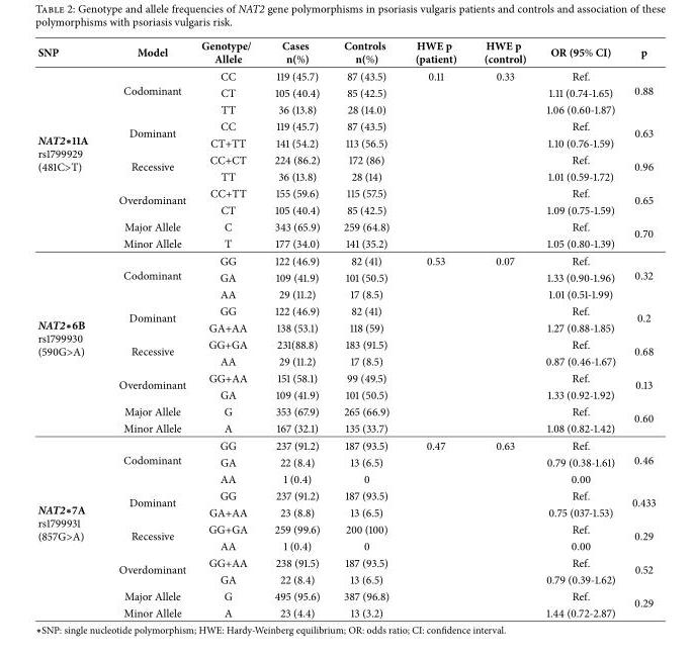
<table><thead><tr><td>SNP</td><td>Model</td><td>Genotype/ Allele</td><td>Cases n(%)</td><td>Controls n(%)</td><td>HWE p (patient)</td><td>HWE p (control)</td><td>OR (95% CI)</td><td>p</td></tr></thead><tbody><tr><td rowspan="11">NAT2∗11A rs1799929 (481C&gt;T)</td><td rowspan="3">Codominant</td><td>CC</td><td>119 (45.7)</td><td>87 (43.5)</td><td>0.11</td><td>0.33</td><td>Ref.</td><td rowspan="3">0.88</td></tr><tr><td>CT</td><td>105 (40.4)</td><td>85 (42.5)</td><td></td><td></td><td>1.11 (0.74-1.65)</td></tr><tr><td>TT</td><td>36 (13.8)</td><td>28 (14.0)</td><td></td><td></td><td>1.06 (0.60-1.87)</td></tr><tr><td rowspan="2">Dominant</td><td>CC</td><td>119 (45.7)</td><td>87 (43.5)</td><td></td><td></td><td>Ref.</td><td rowspan="2">0.63</td></tr><tr><td>CT+TT</td><td>141 (54.2)</td><td>113 (56.5)</td><td></td><td></td><td>1.10 (0.76-1.59)</td></tr><tr><td rowspan="2">Recessive</td><td>CC+CT</td><td>224 (86.2)</td><td>172 (86)</td><td></td><td></td><td>Ref.</td><td rowspan="2">0.96</td></tr><tr><td>TT</td><td>36 (13.8)</td><td>28 (14)</td><td></td><td></td><td>1.01 (0.59-1.72)</td></tr><tr><td rowspan="2">Overdominant</td><td>CC+TT</td><td>155 (59.6)</td><td>115 (57.5)</td><td></td><td></td><td>Ref.</td><td rowspan="2">0.65</td></tr><tr><td>CT</td><td>105 (40.4)</td><td>85 (42.5)</td><td></td><td></td><td>1.09 (0.75-1.59)</td></tr><tr><td>Major Allele</td><td>C</td><td>343 (65.9)</td><td>259 (64.8)</td><td></td><td></td><td>Ref.</td><td rowspan="2">0.70</td></tr><tr><td>Minor Allele</td><td>T</td><td>177 (34.0)</td><td>141 (35.2)</td><td></td><td></td><td>1.05 (0.80-1.39)</td></tr><tr><td rowspan="11">NAT2∗6B rs1799930 (590G&gt;A)</td><td rowspan="3">Codominant</td><td>GG</td><td>122 (46.9)</td><td>82 (41)</td><td>0.53</td><td>0.07</td><td>Ref.</td><td rowspan="3">0.32</td></tr><tr><td>GA</td><td>109 (41.9)</td><td>101 (50.5)</td><td></td><td></td><td>1.33 (0.90-1.96)</td></tr><tr><td>AA</td><td>29 (11.2)</td><td>17 (8.5)</td><td></td><td></td><td>1.01 (0.51-1.99)</td></tr><tr><td rowspan="2">Dominant</td><td>GG</td><td>122 (46.9)</td><td>82 (41)</td><td></td><td></td><td>Ref.</td><td rowspan="2">0.2</td></tr><tr><td>GA+AA</td><td>138 (53.1)</td><td>118 (59)</td><td></td><td></td><td>1.27 (0.88-1.85)</td></tr><tr><td rowspan="2">Recessive</td><td>GG+GA</td><td>231(88.8)</td><td>183 (91.5)</td><td></td><td></td><td>Ref.</td><td rowspan="2">0.68</td></tr><tr><td>AA</td><td>29 (11.2)</td><td>17 (8.5)</td><td></td><td></td><td>0.87 (0.46-1.67)</td></tr><tr><td rowspan="2">Overdominant</td><td>GG+AA</td><td>151 (58.1)</td><td>99 (49.5)</td><td></td><td></td><td>Ref.</td><td rowspan="2">0.13</td></tr><tr><td>GA</td><td>109 (41.9)</td><td>101 (50.5)</td><td></td><td></td><td>1.33 (0.92-1.92)</td></tr><tr><td>Major Allele</td><td>G</td><td>353 (67.9)</td><td>265 (66.9)</td><td></td><td></td><td>Ref.</td><td rowspan="2">0.60</td></tr><tr><td>Minor Allele</td><td>A</td><td>167 (32.1)</td><td>135 (33.7)</td><td></td><td></td><td>1.08 (0.82-1.42)</td></tr><tr><td rowspan="11">NAT2∗7A rs1799931 (857G&gt;A)</td><td rowspan="3">Codominant</td><td>GG</td><td>237 (91.2)</td><td>187 (93.5)</td><td>0.47</td><td>0.63</td><td>Ref.</td><td rowspan="3">0.46</td></tr><tr><td>GA</td><td>22 (8.4)</td><td>13 (6.5)</td><td></td><td></td><td>0.79 (0.38-1.61)</td></tr><tr><td>AA</td><td>1 (0.4)</td><td>0</td><td></td><td></td><td>0.00</td></tr><tr><td rowspan="2">Dominant</td><td>GG</td><td>237 (91.2)</td><td>187 (93.5)</td><td></td><td></td><td>Ref.</td><td rowspan="2">0.433</td></tr><tr><td>GA+AA</td><td>23 (8.8)</td><td>13 (6.5)</td><td></td><td></td><td>0.75 (037-1.53)</td></tr><tr><td rowspan="2">Recessive</td><td>GG+GA</td><td>259 (99.6)</td><td>200 (100)</td><td></td><td></td><td>Ref.</td><td rowspan="2">0.29</td></tr><tr><td>AA</td><td>1 (0.4)</td><td>0</td><td></td><td></td><td>0.00</td></tr><tr><td rowspan="2">Overdominant</td><td>GG+AA</td><td>238 (91.5)</td><td>187 (93.5)</td><td></td><td></td><td>Ref.</td><td rowspan="2">0.52</td></tr><tr><td>GA</td><td>22 (8.4)</td><td>13 (6.5)</td><td></td><td></td><td>0.79 (0.39-1.62)</td></tr><tr><td>Major Allele</td><td>G</td><td>495 (95.6)</td><td>387 (96.8)</td><td></td><td></td><td>Ref.</td><td rowspan="2">0.29</td></tr><tr><td>Minor Allele</td><td>A</td><td>23 (4.4)</td><td>13 (3.2)</td><td></td><td></td><td>1.44 (0.72-2.87)</td></tr></tbody></table>